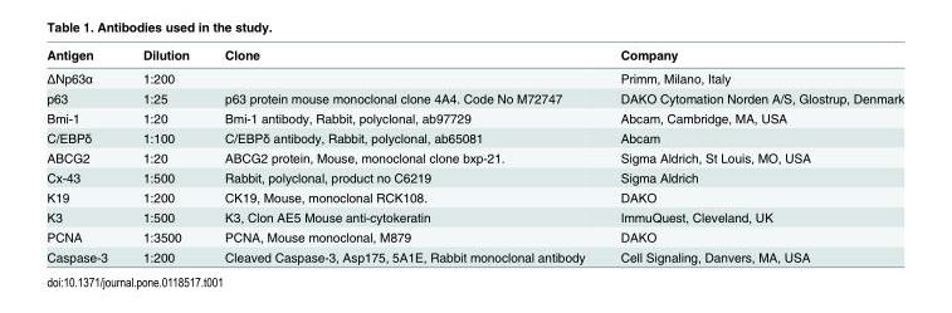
<table><thead><tr><td>Antigen</td><td>Dilution</td><td>Clone</td><td>Company</td></tr></thead><tbody><tr><td>ΔNp63α</td><td>1:200</td><td></td><td>Primm, Milano, Italy</td></tr><tr><td>p63</td><td>1:25</td><td>p63 protein mouse monoclonal clone 4A4. Code No M72747</td><td>DAKO Cytomation Norden A/S, Glostrup, Denmark</td></tr><tr><td>Bmi-1</td><td>1:20</td><td>Bmi-1 antibody, Rabbit, polyclonal, ab97729</td><td>Abcam, Cambridge, MA, USA</td></tr><tr><td>C/EBPδ</td><td>1:100</td><td>C/EBPδ antibody, Rabbit, polyclonal, ab65081</td><td>Abcam</td></tr><tr><td>ABCG2</td><td>1:20</td><td>ABCG2 protein, Mouse, monoclonal clone bxp-21.</td><td>Sigma Aldrich, St Louis, MO, USA</td></tr><tr><td>Cx-43</td><td>1:500</td><td>Rabbit, polyclonal, product no C6219</td><td>Sigma Aldrich</td></tr><tr><td>K19</td><td>1:200</td><td>CK19, Mouse, monoclonal RCK108.</td><td>DAKO</td></tr><tr><td>K3</td><td>1:500</td><td>K3, Clon AE5 Mouse anti-cytokeratin</td><td>ImmuQuest, Cleveland, UK</td></tr><tr><td>PCNA</td><td>1:3500</td><td>PCNA, Mouse monoclonal, M879</td><td>DAKO</td></tr><tr><td>Caspase-3</td><td>1:200</td><td>Cleaved Caspase-3, Asp175, 5A1E, Rabbit monoclonal antibody</td><td>Cell Signaling, Danvers, MA, USA</td></tr></tbody></table>